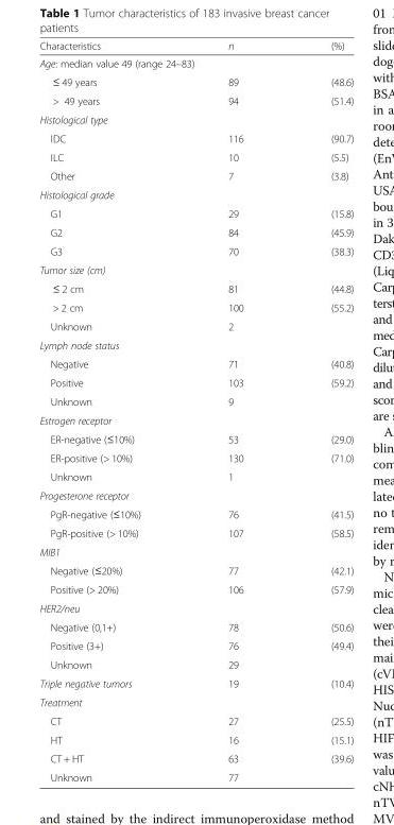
<table><thead><tr><td>Characteristics</td><td>n</td><td>(%)</td></tr></thead><tbody><tr><td colspan="3">Age: median value 49 (range 24–83)</td></tr><tr><td>≤ 49 years</td><td>89</td><td>(48.6)</td></tr><tr><td>&gt; 49 years</td><td>94</td><td>(51.4)</td></tr><tr><td colspan="3">Histological type</td></tr><tr><td>IDC</td><td>116</td><td>(90.7)</td></tr><tr><td>ILC</td><td>10</td><td>(5.5)</td></tr><tr><td>Other</td><td>7</td><td>(3.8)</td></tr><tr><td colspan="3">Histological grade</td></tr><tr><td>G1</td><td>29</td><td>(15.8)</td></tr><tr><td>G2</td><td>84</td><td>(45.9)</td></tr><tr><td>G3</td><td>70</td><td>(38.3)</td></tr><tr><td colspan="3">Tumor size (cm)</td></tr><tr><td>≤ 2 cm</td><td>81</td><td>(44.8)</td></tr><tr><td>&gt; 2 cm</td><td>100</td><td>(55.2)</td></tr><tr><td>Unknown</td><td>2</td><td></td></tr><tr><td colspan="3">Lymph node status</td></tr><tr><td>Negative</td><td>71</td><td>(40.8)</td></tr><tr><td>Positive</td><td>103</td><td>(59.2)</td></tr><tr><td>Unknown</td><td>9</td><td></td></tr><tr><td colspan="3">Estrogen receptor</td></tr><tr><td>ER-negative (≤10%)</td><td>53</td><td>(29.0)</td></tr><tr><td>ER-positive (&gt; 10%)</td><td>130</td><td>(71.0)</td></tr><tr><td>Unknown</td><td>1</td><td></td></tr><tr><td colspan="3">Progesterone receptor</td></tr><tr><td>PgR-negative (≤10%)</td><td>76</td><td>(41.5)</td></tr><tr><td>PgR-positive (&gt; 10%)</td><td>107</td><td>(58.5)</td></tr><tr><td colspan="3">MIB1</td></tr><tr><td>Negative (≤20%)</td><td>77</td><td>(42.1)</td></tr><tr><td>Positive (&gt; 20%)</td><td>106</td><td>(57.9)</td></tr><tr><td colspan="3">HER2/neu</td></tr><tr><td>Negative (0,1+)</td><td>78</td><td>(50.6)</td></tr><tr><td>Positive (3+)</td><td>76</td><td>(49.4)</td></tr><tr><td>Unknown</td><td>29</td><td></td></tr><tr><td>Triple negative tumors</td><td>19</td><td>(10.4)</td></tr><tr><td colspan="3">Treatment</td></tr><tr><td>CT</td><td>27</td><td>(25.5)</td></tr><tr><td>HT</td><td>16</td><td>(15.1)</td></tr><tr><td>CT + HT</td><td>63</td><td>(39.6)</td></tr><tr><td>Unknown</td><td>77</td><td></td></tr></tbody></table>